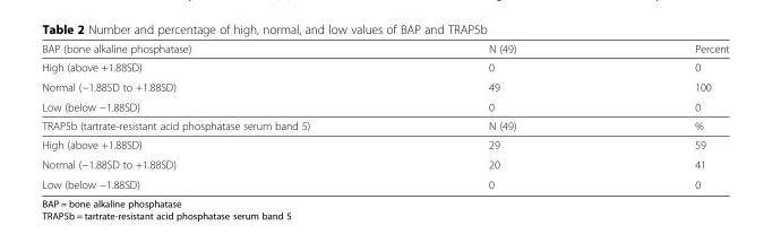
<table><thead><tr><td>BAP (bone alkaline phosphatase)</td><td>N (49)</td><td>Percent</td></tr></thead><tbody><tr><td>High (above +1.88SD)</td><td>0</td><td>0</td></tr><tr><td>Normal (−1.88SD to +1.88SD)</td><td>49</td><td>100</td></tr><tr><td>Low (below −1.88SD)</td><td>0</td><td>0</td></tr><tr><td>TRAP5b (tartrate-resistant acid phosphatase serum band 5)</td><td>N (49)</td><td>%</td></tr><tr><td>High (above +1.88SD)</td><td>29</td><td>59</td></tr><tr><td>Normal (−1.88SD to +1.88SD)</td><td>20</td><td>41</td></tr><tr><td>Low (below −1.88SD)</td><td>0</td><td>0</td></tr></tbody></table>